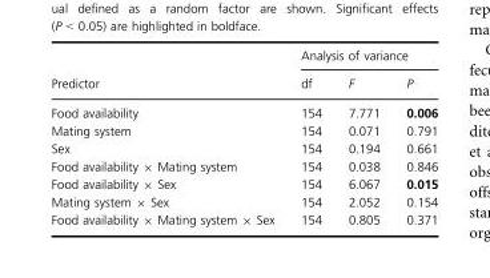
<table><thead><tr><td rowspan="2">Predictor</td><td colspan="3">Analysis of variance</td></tr><tr><td>df</td><td>F</td><td>P</td></tr></thead><tbody><tr><td>Food availability</td><td>154</td><td>7.771</td><td>0.006</td></tr><tr><td>Mating system</td><td>154</td><td>0.071</td><td>0.791</td></tr><tr><td>Sex</td><td>154</td><td>0.194</td><td>0.661</td></tr><tr><td>Food availability × Mating system</td><td>154</td><td>0.038</td><td>0.846</td></tr><tr><td>Food availability × Sex</td><td>154</td><td>6.067</td><td>0.015</td></tr><tr><td>Mating system × Sex</td><td>154</td><td>2.052</td><td>0.154</td></tr><tr><td>Food availability × Mating system × Sex</td><td>154</td><td>0.805</td><td>0.371</td></tr></tbody></table>